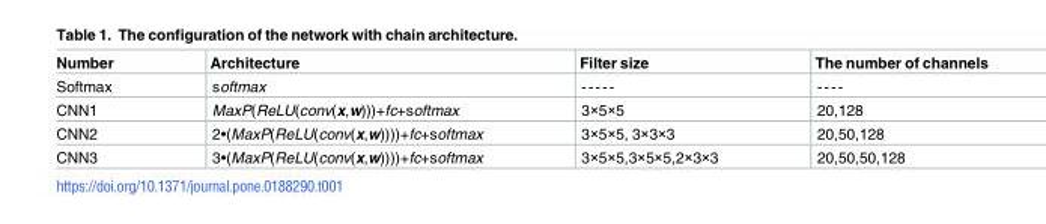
<table><thead><tr><td>Number</td><td>Architecture</td><td>Filter size</td><td>The number of channels</td></tr></thead><tbody><tr><td>Softmax</td><td>softmax</td><td>-----</td><td>----</td></tr><tr><td>CNN1</td><td>MaxP(ReLU(conv(x,w)))+fc+softmax</td><td>3×5×5</td><td>20,128</td></tr><tr><td>CNN2</td><td>2•(MaxP(ReLU(conv(x,w))))+fc+softmax</td><td>3×5×5, 3×3×3</td><td>20,50,128</td></tr><tr><td>CNN3</td><td>3•(MaxP(ReLU(conv(x,w))))+fc+softmax</td><td>3×5×5,3×5×5,2×3×3</td><td>20,50,50,128</td></tr></tbody></table>